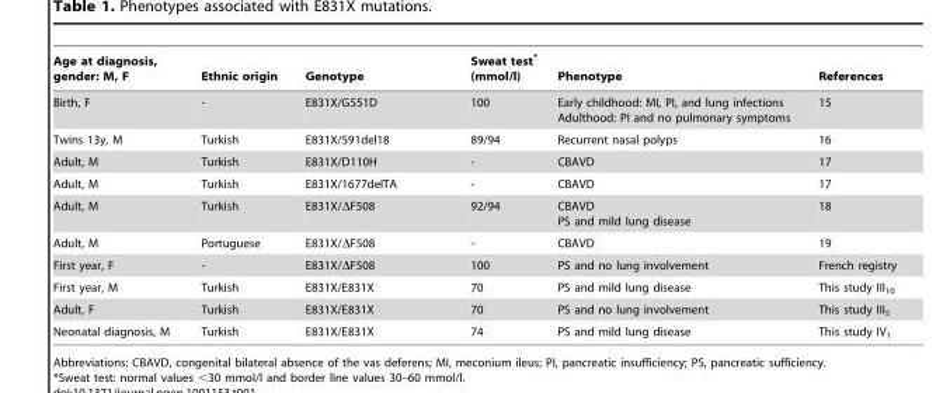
<table><thead><tr><td>Age at diagnosis, gender: M, F</td><td>Ethnic origin</td><td>Genotype</td><td>Sweat test* (mmol/l)</td><td>Phenotype</td><td>References</td></tr></thead><tbody><tr><td>Birth, F</td><td>-</td><td>E831X/G551D</td><td>100</td><td>Early childhood: MI, PI, and lung infections Adulthood: PI and no pulmonary symptoms</td><td>15</td></tr><tr><td>Twins 13y, M</td><td>Turkish</td><td>E831X/591del18</td><td>89/94</td><td>Recurrent nasal polyps</td><td>16</td></tr><tr><td>Adult, M</td><td>Turkish</td><td>E831X/D110H</td><td>-</td><td>CBAVD</td><td>17</td></tr><tr><td>Adult, M</td><td>Turkish</td><td>E831X/1677delTA</td><td>-</td><td>CBAVD</td><td>17</td></tr><tr><td>Adult, M</td><td>Turkish</td><td>E831X/ΔF508</td><td>92/94</td><td>CBAVD PS and mild lung disease</td><td>18</td></tr><tr><td>Adult, M</td><td>Portuguese</td><td>E831X/ΔF508</td><td>-</td><td>CBAVD</td><td>19</td></tr><tr><td>First year, F</td><td>-</td><td>E831X/ΔF508</td><td>100</td><td>PS and no lung involvement</td><td>French registry</td></tr><tr><td>First year, M</td><td>Turkish</td><td>E831X/E831X</td><td>70</td><td>PS and mild lung disease</td><td>This study III<sub>10</sub></td></tr><tr><td>Adult, F</td><td>Turkish</td><td>E831X/E831X</td><td>70</td><td>PS and no lung involvement</td><td>This study III<sub>5</sub></td></tr><tr><td>Neonatal diagnosis, M</td><td>Turkish</td><td>E831X/E831X</td><td>74</td><td>PS and mild lung disease</td><td>This study IV<sub>1</sub></td></tr></tbody></table>